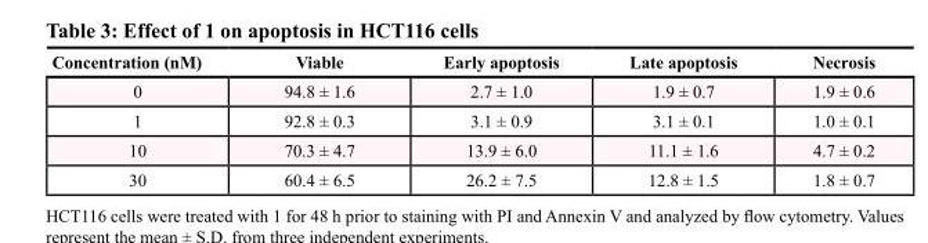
<table><thead><tr><td>Concentration (nM)</td><td>Viable</td><td>Early apoptosis</td><td>Late apoptosis</td><td>Necrosis</td></tr></thead><tbody><tr><td>0</td><td>94.8 ± 1.6</td><td>2.7 ± 1.0</td><td>1.9 ± 0.7</td><td>1.9 ± 0.6</td></tr><tr><td>1</td><td>92.8 ± 0.3</td><td>3.1 ± 0.9</td><td>3.1 ± 0.1</td><td>1.0 ± 0.1</td></tr><tr><td>10</td><td>70.3 ± 4.7</td><td>13.9 ± 6.0</td><td>11.1 ± 1.6</td><td>4.7 ± 0.2</td></tr><tr><td>30</td><td>60.4 ± 6.5</td><td>26.2 ± 7.5</td><td>12.8 ± 1.5</td><td>1.8 ± 0.7</td></tr></tbody></table>